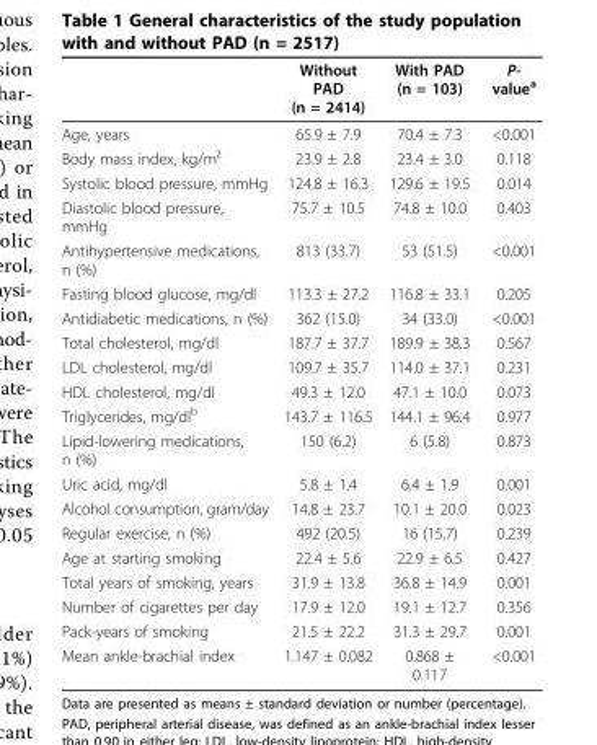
<table><thead><tr><td></td><td>Without PAD (n = 2414)</td><td>With PAD (n = 103)</td><td>P- value<sup>a</sup></td></tr></thead><tbody><tr><td>Age, years</td><td>65.9 ± 7.9</td><td>70.4 ± 7.3</td><td>&lt;0.001</td></tr><tr><td>Body mass index, kg/m²</td><td>23.9 ± 2.8</td><td>23.4 ± 3.0</td><td>0.118</td></tr><tr><td>Systolic blood pressure, mmHg</td><td>124.8 ± 16.3</td><td>129.6 ± 19.5</td><td>0.014</td></tr><tr><td>Diastolic blood pressure, mmHg</td><td>75.7 ± 10.5</td><td>74.8 ± 10.0</td><td>0.403</td></tr><tr><td>Antihypertensive medications, n (%)</td><td>813 (33.7)</td><td>53 (51.5)</td><td>&lt;0.001</td></tr><tr><td>Fasting blood glucose, mg/dl</td><td>113.3 ± 27.2</td><td>116.8 ± 33.1</td><td>0.205</td></tr><tr><td>Antidiabetic medications, n (%)</td><td>362 (15.0)</td><td>34 (33.0)</td><td>&lt;0.001</td></tr><tr><td>Total cholesterol, mg/dl</td><td>187.7 ± 37.7</td><td>189.9 ± 38.3</td><td>0.567</td></tr><tr><td>LDL cholesterol, mg/dl</td><td>109.7 ± 35.7</td><td>114.0 ± 37.1</td><td>0.231</td></tr><tr><td>HDL cholesterol, mg/dl</td><td>49.3 ± 12.0</td><td>47.1 ± 10.0</td><td>0.073</td></tr><tr><td>Triglycerides, mg/dl<sup>b</sup></td><td>143.7 ± 116.5</td><td>144.1 ± 96.4</td><td>0.977</td></tr><tr><td>Lipid-lowering medications, n (%)</td><td>150 (6.2)</td><td>6 (5.8)</td><td>0.873</td></tr><tr><td>Uric acid, mg/dl</td><td>5.8 ± 1.4</td><td>6.4 ± 1.9</td><td>0.001</td></tr><tr><td>Alcohol consumption, gram/day</td><td>14.8 ± 23.7</td><td>10.1 ± 20.0</td><td>0.023</td></tr><tr><td>Regular exercise, n (%)</td><td>492 (20.5)</td><td>16 (15.7)</td><td>0.239</td></tr><tr><td>Age at starting smoking</td><td>22.4 ± 5.6</td><td>22.9 ± 6.5</td><td>0.427</td></tr><tr><td>Total years of smoking, years</td><td>31.9 ± 13.8</td><td>36.8 ± 14.9</td><td>0.001</td></tr><tr><td>Number of cigarettes per day</td><td>17.9 ± 12.0</td><td>19.1 ± 12.7</td><td>0.356</td></tr><tr><td>Pack-years of smoking</td><td>21.5 ± 22.2</td><td>31.3 ± 29.7</td><td>0.001</td></tr><tr><td>Mean ankle-brachial index</td><td>1.147 ± 0.082</td><td>0.868 ± 0.117</td><td>&lt;0.001</td></tr></tbody></table>